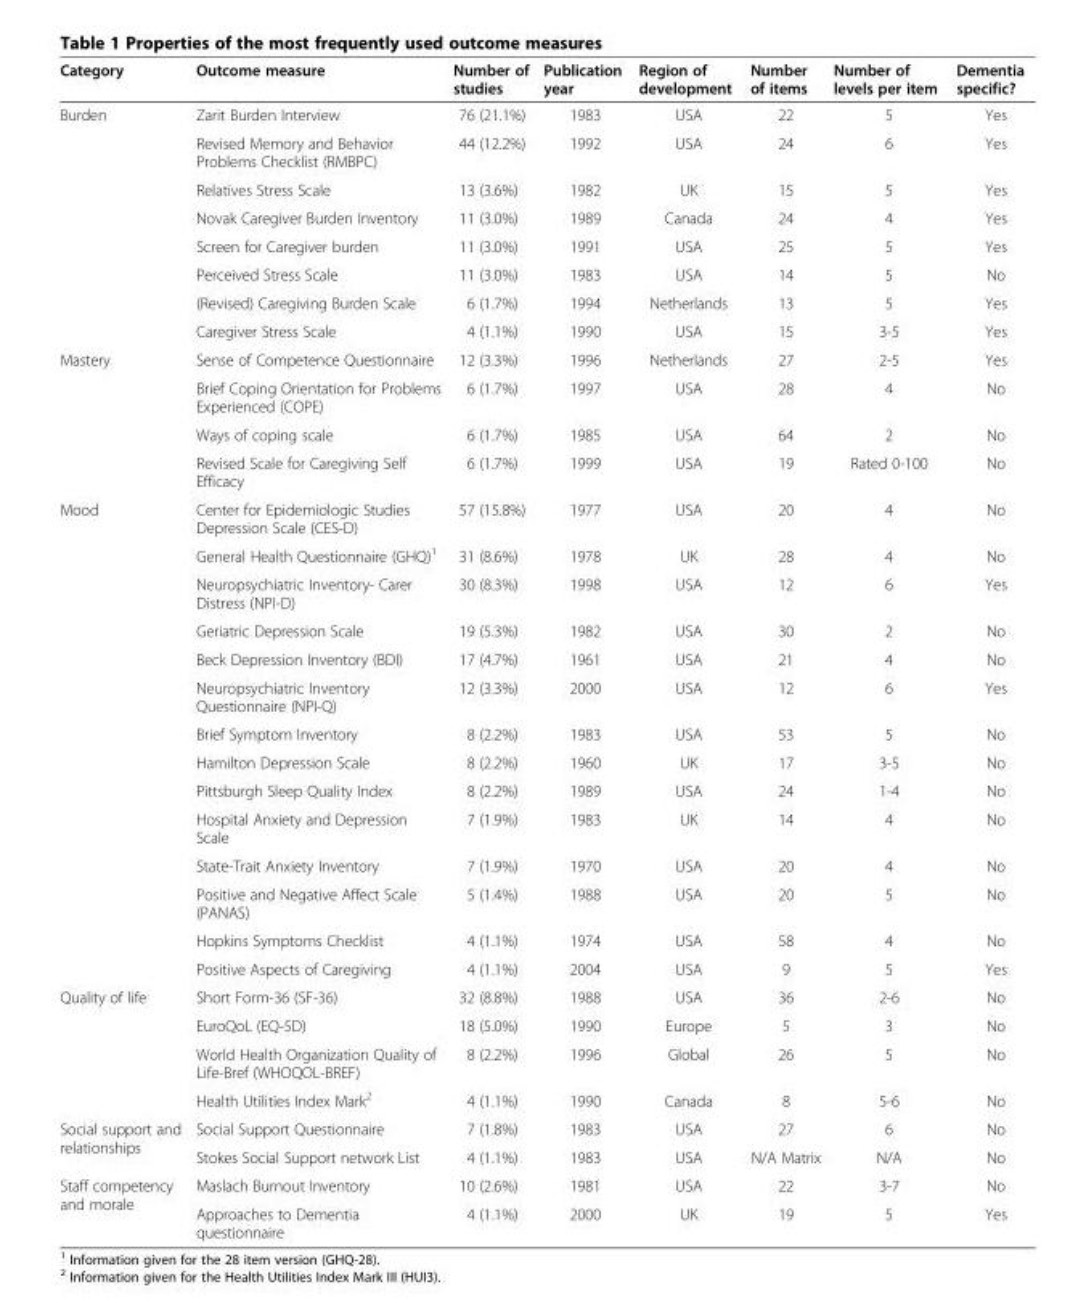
<table><thead><tr><td>Category</td><td>Outcome measure</td><td>Number of studies</td><td>Publication year</td><td>Region of development</td><td>Number of items</td><td>Number of levels per item</td><td>Dementia specific?</td></tr></thead><tbody><tr><td rowspan="8">Burden</td><td>Zarit Burden Interview</td><td>76 (21.1%)</td><td>1983</td><td>USA</td><td>22</td><td>5</td><td>Yes</td></tr><tr><td>Revised Memory and Behavior Problems Checklist (RMBPC)</td><td>44 (12.2%)</td><td>1992</td><td>USA</td><td>24</td><td>6</td><td>Yes</td></tr><tr><td>Relatives Stress Scale</td><td>13 (3.6%)</td><td>1982</td><td>UK</td><td>15</td><td>5</td><td>Yes</td></tr><tr><td>Novak Caregiver Burden Inventory</td><td>11 (3.0%)</td><td>1989</td><td>Canada</td><td>24</td><td>4</td><td>Yes</td></tr><tr><td>Screen for Caregiver burden</td><td>11 (3.0%)</td><td>1991</td><td>USA</td><td>25</td><td>5</td><td>Yes</td></tr><tr><td>Perceived Stress Scale</td><td>11 (3.0%)</td><td>1983</td><td>USA</td><td>14</td><td>5</td><td>No</td></tr><tr><td>(Revised) Caregiving Burden Scale</td><td>6 (1.7%)</td><td>1994</td><td>Netherlands</td><td>13</td><td>5</td><td>Yes</td></tr><tr><td>Caregiver Stress Scale</td><td>4 (1.1%)</td><td>1990</td><td>USA</td><td>15</td><td>3-5</td><td>Yes</td></tr><tr><td rowspan="4">Mastery</td><td>Sense of Competence Questionnaire</td><td>12 (3.3%)</td><td>1996</td><td>Netherlands</td><td>27</td><td>2-5</td><td>Yes</td></tr><tr><td>Brief Coping Orientation for Problems Experienced (COPE)</td><td>6 (1.7%)</td><td>1997</td><td>USA</td><td>28</td><td>4</td><td>No</td></tr><tr><td>Ways of coping scale</td><td>6 (1.7%)</td><td>1985</td><td>USA</td><td>64</td><td>2</td><td>No</td></tr><tr><td>Revised Scale for Caregiving Self Efficacy</td><td>6 (1.7%)</td><td>1999</td><td>USA</td><td>19</td><td>Rated 0-100</td><td>No</td></tr><tr><td rowspan="14">Mood</td><td>Center for Epidemiologic Studies Depression Scale (CES-D)</td><td>57 (15.8%)</td><td>1977</td><td>USA</td><td>20</td><td>4</td><td>No</td></tr><tr><td>General Health Questionnaire (GHQ)<sup>1</sup></td><td>31 (8.6%)</td><td>1978</td><td>UK</td><td>28</td><td>4</td><td>No</td></tr><tr><td>Neuropsychiatric Inventory- Carer Distress (NPI-D)</td><td>30 (8.3%)</td><td>1998</td><td>USA</td><td>12</td><td>6</td><td>Yes</td></tr><tr><td>Geriatric Depression Scale</td><td>19 (5.3%)</td><td>1982</td><td>USA</td><td>30</td><td>2</td><td>No</td></tr><tr><td>Beck Depression Inventory (BDI)</td><td>17 (4.7%)</td><td>1961</td><td>USA</td><td>21</td><td>4</td><td>No</td></tr><tr><td>Neuropsychiatric Inventory Questionnaire (NPI-Q)</td><td>12 (3.3%)</td><td>2000</td><td>USA</td><td>12</td><td>6</td><td>Yes</td></tr><tr><td>Brief Symptom Inventory</td><td>8 (2.2%)</td><td>1983</td><td>USA</td><td>53</td><td>5</td><td>No</td></tr><tr><td>Hamilton Depression Scale</td><td>8 (2.2%)</td><td>1960</td><td>UK</td><td>17</td><td>3-5</td><td>No</td></tr><tr><td>Pittsburgh Sleep Quality Index</td><td>8 (2.2%)</td><td>1989</td><td>USA</td><td>24</td><td>1-4</td><td>No</td></tr><tr><td>Hospital Anxiety and Depression Scale</td><td>7 (1.9%)</td><td>1983</td><td>UK</td><td>14</td><td>4</td><td>No</td></tr><tr><td>State-Trait Anxiety Inventory</td><td>7 (1.9%)</td><td>1970</td><td>USA</td><td>20</td><td>4</td><td>No</td></tr><tr><td>Positive and Negative Affect Scale (PANAS)</td><td>5 (1.4%)</td><td>1988</td><td>USA</td><td>20</td><td>5</td><td>No</td></tr><tr><td>Hopkins Symptoms Checklist</td><td>4 (1.1%)</td><td>1974</td><td>USA</td><td>58</td><td>4</td><td>No</td></tr><tr><td>Positive Aspects of Caregiving</td><td>4 (1.1%)</td><td>2004</td><td>USA</td><td>9</td><td>5</td><td>Yes</td></tr><tr><td rowspan="4">Quality of life</td><td>Short Form-36 (SF-36)</td><td>32 (8.8%)</td><td>1988</td><td>USA</td><td>36</td><td>2-6</td><td>No</td></tr><tr><td>EuroQoL (EQ-5D)</td><td>18 (5.0%)</td><td>1990</td><td>Europe</td><td>5</td><td>3</td><td>No</td></tr><tr><td>World Health Organization Quality of Life-Bref (WHOQOL-BREF)</td><td>8 (2.2%)</td><td>1996</td><td>Global</td><td>26</td><td>5</td><td>No</td></tr><tr><td>Health Utilities Index Mark<sup>2</sup></td><td>4 (1.1%)</td><td>1990</td><td>Canada</td><td>8</td><td>5-6</td><td>No</td></tr><tr><td rowspan="2">Social support and relationships</td><td>Social Support Questionnaire</td><td>7 (1.8%)</td><td>1983</td><td>USA</td><td>27</td><td>6</td><td>No</td></tr><tr><td>Stokes Social Support network List</td><td>4 (1.1%)</td><td>1983</td><td>USA</td><td>N/A Matrix</td><td>N/A</td><td>No</td></tr><tr><td rowspan="2">Staff competency and morale</td><td>Maslach Burnout Inventory</td><td>10 (2.6%)</td><td>1981</td><td>USA</td><td>22</td><td>3-7</td><td>No</td></tr><tr><td>Approaches to Dementia questionnaire</td><td>4 (1.1%)</td><td>2000</td><td>UK</td><td>19</td><td>5</td><td>Yes</td></tr></tbody></table>